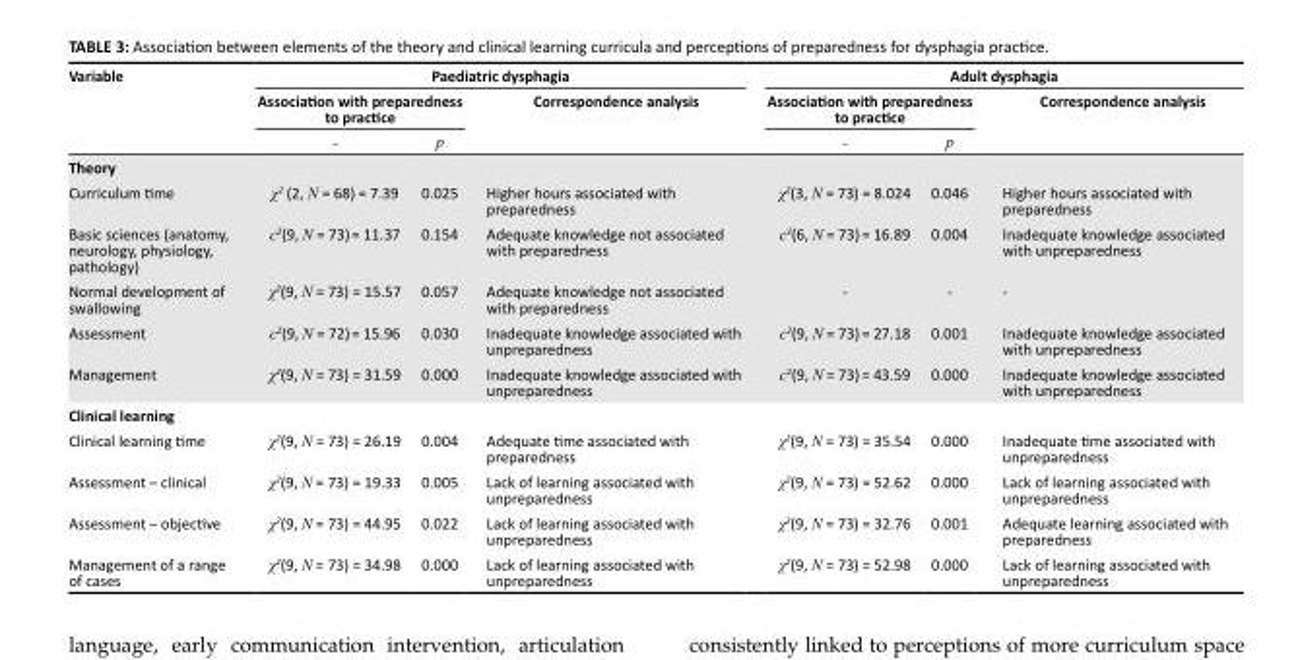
<table><thead><tr><td rowspan="3">Variable</td><td colspan="3">Paediatric dysphagia</td><td colspan="3">Adult dysphagia</td></tr><tr><td colspan="2">Association with preparedness to practice</td><td rowspan="2">Correspondence analysis</td><td colspan="2">Association with preparedness to practice</td><td rowspan="2">Correspondence analysis</td></tr><tr><td>-</td><td>p</td><td>-</td><td>p</td></tr></thead><tbody><tr><td colspan="7">Theory</td></tr><tr><td>Curriculum time</td><td>χ<sup>2</sup> (2, N = 68) = 7.39</td><td>0.025</td><td>Higher hours associated with preparedness</td><td>χ<sup>2</sup>(3, N = 73) = 8.024</td><td>0.046</td><td>Higher hours associated with preparedness</td></tr><tr><td>Basic sciences (anatomy, neurology, physiology, pathology)</td><td>c<sup>2</sup>(9, N = 73) = 11.37</td><td>0.154</td><td>Adequate knowledge not associated with preparedness</td><td>c<sup>2</sup>(6, N = 73) = 16.89</td><td>0.004</td><td>Inadequate knowledge associated with unpreparedness</td></tr><tr><td>Normal development of swallowing</td><td>χ<sup>2</sup>(9, N = 73) = 15.57</td><td>0.057</td><td>Adequate knowledge not associated with preparedness</td><td>-</td><td>-</td><td>-</td></tr><tr><td>Assessment</td><td>c<sup>2</sup>(9, N = 72) = 15.96</td><td>0.030</td><td>Inadequate knowledge associated with unpreparedness</td><td>c<sup>2</sup>(9, N = 73) = 27.18</td><td>0.001</td><td>Inadequate knowledge associated with unpreparedness</td></tr><tr><td>Management</td><td>χ<sup>2</sup>(9, N = 73) = 31.59</td><td>0.000</td><td>Inadequate knowledge associated with unpreparedness</td><td>c<sup>2</sup>(9, N = 73) = 43.59</td><td>0.000</td><td>Inadequate knowledge associated with unpreparedness</td></tr><tr><td colspan="7">Clinical learning</td></tr><tr><td>Clinical learning time</td><td>χ<sup>2</sup>(9, N = 73) = 26.19</td><td>0.004</td><td>Adequate time associated with preparedness</td><td>χ<sup>2</sup>(9, N = 73) = 35.54</td><td>0.000</td><td>Inadequate time associated with unpreparedness</td></tr><tr><td>Assessment – clinical</td><td>χ<sup>2</sup>(9, N = 73) = 19.33</td><td>0.005</td><td>Lack of learning associated with unpreparedness</td><td>χ<sup>2</sup>(9, N = 73) = 52.62</td><td>0.000</td><td>Lack of learning associated with unpreparedness</td></tr><tr><td>Assessment – objective</td><td>χ<sup>2</sup>(9, N = 73) = 44.95</td><td>0.022</td><td>Lack of learning associated with unpreparedness</td><td>χ<sup>2</sup>(9, N = 73) = 32.76</td><td>0.001</td><td>Adequate learning associated with preparedness</td></tr><tr><td>Management of a range of cases</td><td>χ<sup>2</sup>(9, N = 73) = 34.98</td><td>0.000</td><td>Lack of learning associated with unpreparedness</td><td>χ<sup>2</sup>(9, N = 73) = 52.98</td><td>0.000</td><td>Lack of learning associated with unpreparedness</td></tr></tbody></table>